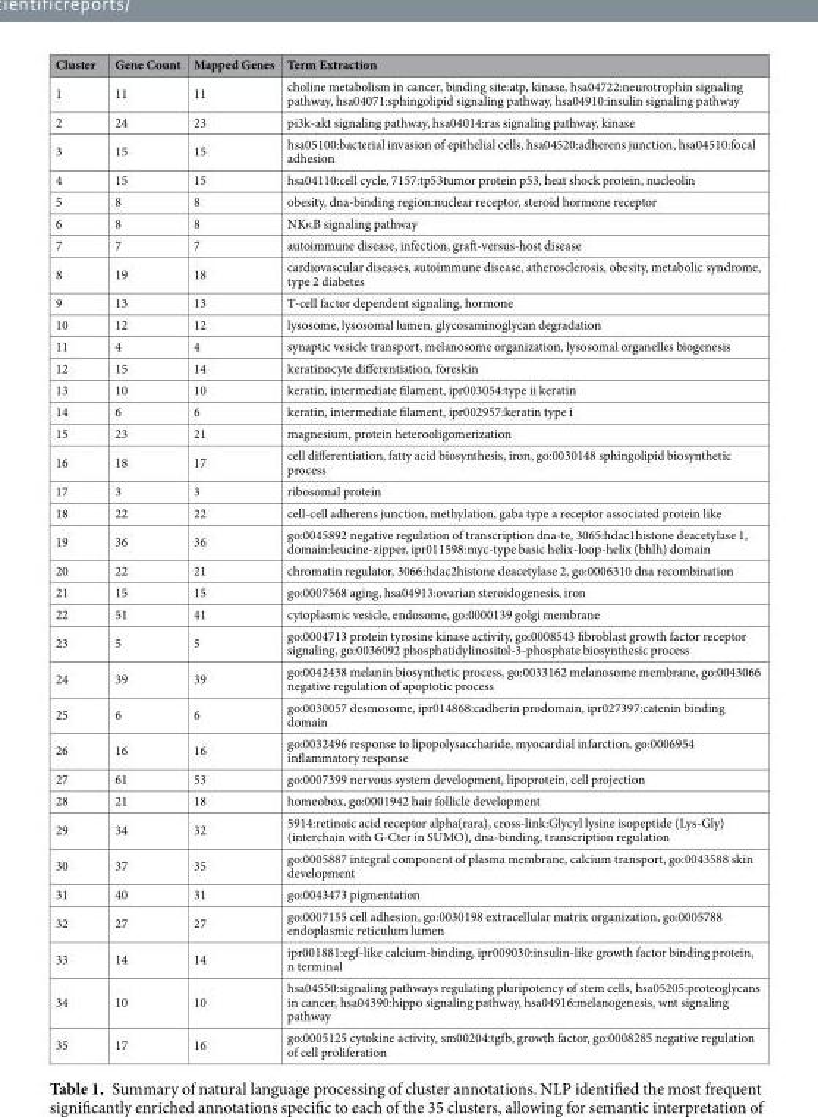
<table><thead><tr><td>Cluster</td><td>Gene Count</td><td>Mapped Genes</td><td>Term Extraction</td></tr></thead><tbody><tr><td>1</td><td>11</td><td>11</td><td>choline metabolism in cancer, binding site:atp, kinase, hsa04722:neurotrophin signaling pathway, hsa04071:sphingolipid signaling pathway, hsa04910:insulin signaling pathway</td></tr><tr><td>2</td><td>24</td><td>23</td><td>pi3k-akt signaling pathway, hsa04014:ras signaling pathway, kinase</td></tr><tr><td>3</td><td>15</td><td>15</td><td>hsa05100:bacterial invasion of epithelial cells, hsa04520:adherens junction, hsa04510:focal adhesion</td></tr><tr><td>4</td><td>15</td><td>15</td><td>hsa04110:cell cycle, 7157:tp53tumor protein p53, heat shock protein, nucleolin</td></tr><tr><td>5</td><td>8</td><td>8</td><td>obesity, dna-binding region:nuclear receptor, steroid hormone receptor</td></tr><tr><td>6</td><td>8</td><td>8</td><td>NKκB signaling pathway</td></tr><tr><td>7</td><td>7</td><td>7</td><td>autoimmune disease, infection, graft-versus-host disease</td></tr><tr><td>8</td><td>19</td><td>18</td><td>cardiovascular diseases, autoimmune disease, atherosclerosis, obesity, metabolic syndrome, type 2 diabetes</td></tr><tr><td>9</td><td>13</td><td>13</td><td>T-cell factor dependent signaling, hormone</td></tr><tr><td>10</td><td>12</td><td>12</td><td>lysosome, lysosomal lumen, glycosaminoglycan degradation</td></tr><tr><td>11</td><td>4</td><td>4</td><td>synaptic vesicle transport, melanosome organization, lysosomal organelles biogenesis</td></tr><tr><td>12</td><td>15</td><td>14</td><td>keratinocyte differentiation, foreskin</td></tr><tr><td>13</td><td>10</td><td>10</td><td>keratin, intermediate filament, ipr003054:type ii keratin</td></tr><tr><td>14</td><td>6</td><td>6</td><td>keratin, intermediate filament, ipr002957:keratin type i</td></tr><tr><td>15</td><td>23</td><td>21</td><td>magnesium, protein heterooligomerization</td></tr><tr><td>16</td><td>18</td><td>17</td><td>cell differentiation, fatty acid biosynthesis, iron, go:0030148 sphingolipid biosynthetic process</td></tr><tr><td>17</td><td>3</td><td>3</td><td>ribosomal protein</td></tr><tr><td>18</td><td>22</td><td>22</td><td>cell-cell adherens junction, methylation, gaba type a receptor associated protein like</td></tr><tr><td>19</td><td>36</td><td>36</td><td>go:0045892 negative regulation of transcription dna-te, 3065:hdac1histone deacetylase 1, domain:leucine-zipper, ipr011598:myc-type basic helix-loop-helix (bhlh) domain</td></tr><tr><td>20</td><td>22</td><td>21</td><td>chromatin regulator, 3066:hdac2histone deacetylase 2, go:0006310 dna recombination</td></tr><tr><td>21</td><td>15</td><td>15</td><td>go:0007568 aging, hsa04913:ovarian steroidogenesis, iron</td></tr><tr><td>22</td><td>51</td><td>41</td><td>cytoplasmic vesicle, endosome, go:0000139 golgi membrane</td></tr><tr><td>23</td><td>5</td><td>5</td><td>go:0004713 protein tyrosine kinase activity, go:0008543 fibroblast growth factor receptor signaling, go:0036092 phosphatidylinositol-3-phosphate biosynthesic process</td></tr><tr><td>24</td><td>39</td><td>39</td><td>go:0042438 melanin biosynthetic process, go:0033162 melanosome membrane, go:0043066 negative regulation of apoptotic process</td></tr><tr><td>25</td><td>6</td><td>6</td><td>go:0030057 desmosome, ipr014868:cadherin prodomain, ipr027397:catenin binding domain</td></tr><tr><td>26</td><td>16</td><td>16</td><td>go:0032496 response to lipopolysaccharide, myocardial infarction, go:0006954 inflammatory response</td></tr><tr><td>27</td><td>61</td><td>53</td><td>go:0007399 nervous system development, lipoprotein, cell projection</td></tr><tr><td>28</td><td>21</td><td>18</td><td>homeobox, go:0001942 hair follicle development</td></tr><tr><td>29</td><td>34</td><td>32</td><td>5914:retinoic acid receptor alpha(rara), cross-link:Glycyl lysine isopeptide (Lys-Gly) (interchain with G-Cter in SUMO), dna-binding, transcription regulation</td></tr><tr><td>30</td><td>37</td><td>35</td><td>go:0005887 integral component of plasma membrane, calcium transport, go:0043588 skin development</td></tr><tr><td>31</td><td>40</td><td>31</td><td>go:0043473 pigmentation</td></tr><tr><td>32</td><td>27</td><td>27</td><td>go:0007155 cell adhesion, go:0030198 extracellular matrix organization, go:0005788 endoplasmic reticulum lumen</td></tr><tr><td>33</td><td>14</td><td>14</td><td>ipr001881:egf-like calcium-binding, ipr009030:insulin-like growth factor binding protein, n terminal</td></tr><tr><td>34</td><td>10</td><td>10</td><td>hsa04550:signaling pathways regulating pluripotency of stem cells, hsa05205:proteoglycans in cancer, hsa04390:hippo signaling pathway, hsa04916:melanogenesis, wnt signaling pathway</td></tr><tr><td>35</td><td>17</td><td>16</td><td>go:0005125 cytokine activity, sm00204:tgfb, growth factor, go:0008285 negative regulation of cell proliferation</td></tr></tbody></table>